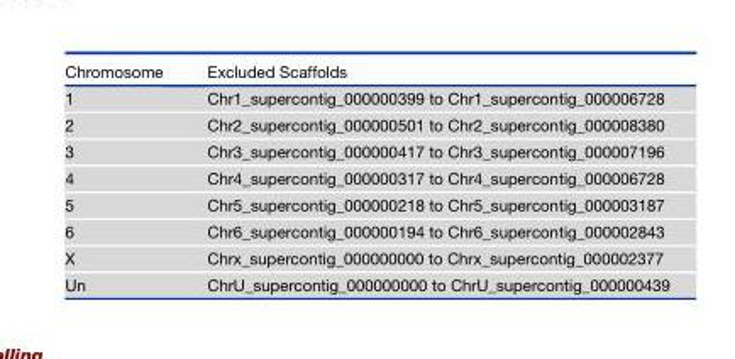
<table><thead><tr><td>Chromosome</td><td>Excluded Scaffolds</td></tr></thead><tbody><tr><td>1</td><td>Chr1_supercontig_000000399 to Chr1_supercontig_000006728</td></tr><tr><td>2</td><td>Chr2_supercontig_000000501 to Chr2_supercontig_000008380</td></tr><tr><td>3</td><td>Chr3_supercontig_000000417 to Chr3_supercontig_000007196</td></tr><tr><td>4</td><td>Chr4_supercontig_000000317 to Chr4_supercontig_000006728</td></tr><tr><td>5</td><td>Chr5_supercontig_000000218 to Chr5_supercontig_000003187</td></tr><tr><td>6</td><td>Chr6_supercontig_000000194 to Chr6_supercontig_000002843</td></tr><tr><td>X</td><td>Chrx_supercontig_000000000 to Chrx_supercontig_000002377</td></tr><tr><td>Un</td><td>ChrU_supercontig_000000000 to ChrU_supercontig_000000439</td></tr></tbody></table>